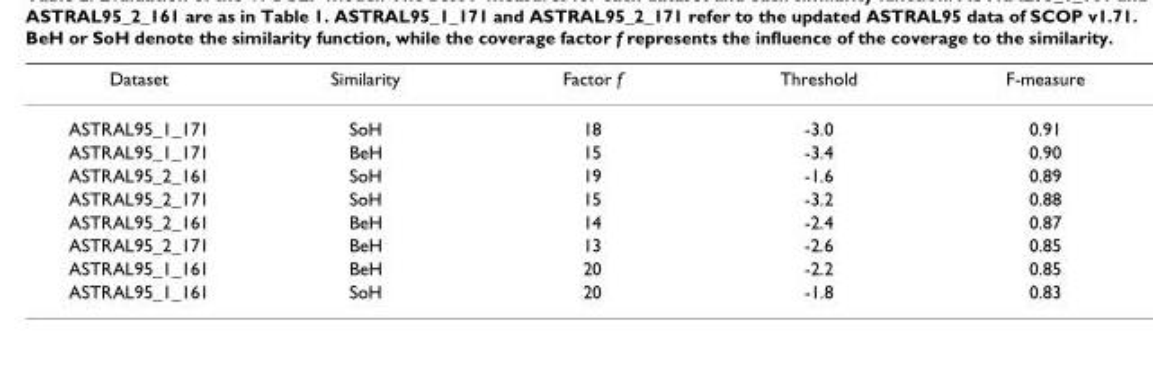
<table><thead><tr><td>Dataset</td><td>Similarity</td><td>Factor f</td><td>Threshold</td><td>F-measure</td></tr></thead><tbody><tr><td>ASTRAL95_1_171</td><td>SoH</td><td>18</td><td>-3.0</td><td>0.91</td></tr><tr><td>ASTRAL95_1_171</td><td>BeH</td><td>15</td><td>-3.4</td><td>0.90</td></tr><tr><td>ASTRAL95_2_161</td><td>SoH</td><td>19</td><td>-1.6</td><td>0.89</td></tr><tr><td>ASTRAL95_2_171</td><td>SoH</td><td>15</td><td>-3.2</td><td>0.88</td></tr><tr><td>ASTRAL95_2_161</td><td>BeH</td><td>14</td><td>-2.4</td><td>0.87</td></tr><tr><td>ASTRAL95_2_171</td><td>BeH</td><td>13</td><td>-2.6</td><td>0.85</td></tr><tr><td>ASTRAL95_1_161</td><td>BeH</td><td>20</td><td>-2.2</td><td>0.85</td></tr><tr><td>ASTRAL95_1_161</td><td>SoH</td><td>20</td><td>-1.8</td><td>0.83</td></tr></tbody></table>